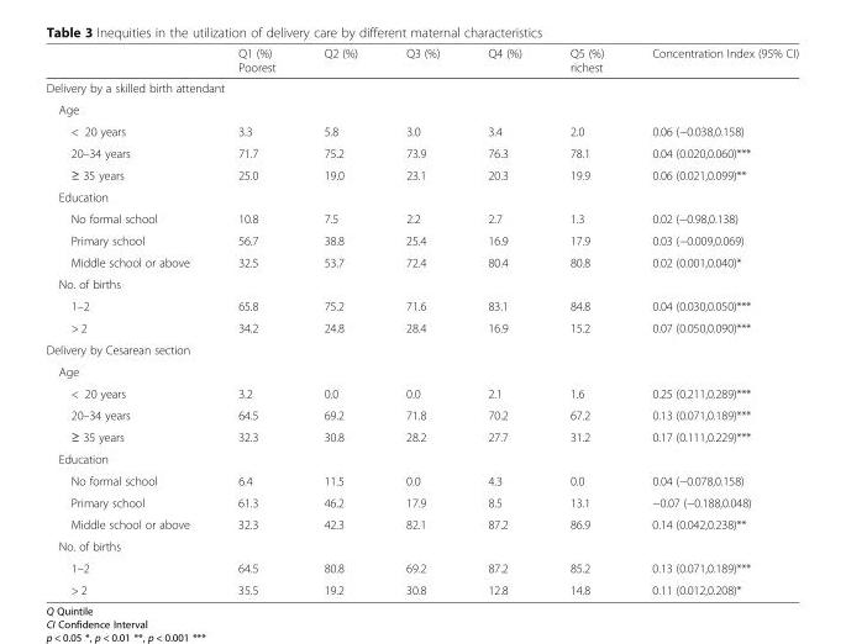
<table><thead><tr><td></td><td>Q1 (%) Poorest</td><td>Q2 (%)</td><td>Q3 (%)</td><td>Q4 (%)</td><td>Q5 (%) richest</td><td>Concentration Index (95% CI)</td></tr></thead><tbody><tr><td colspan="7">Delivery by a skilled birth attendant</td></tr><tr><td colspan="7">Age</td></tr><tr><td>&lt; 20 years</td><td>3.3</td><td>5.8</td><td>3.0</td><td>3.4</td><td>2.0</td><td>0.06 (−0.038,0.158)</td></tr><tr><td>20–34 years</td><td>71.7</td><td>75.2</td><td>73.9</td><td>76.3</td><td>78.1</td><td>0.04 (0.020,0.060)***</td></tr><tr><td>≥ 35 years</td><td>25.0</td><td>19.0</td><td>23.1</td><td>20.3</td><td>19.9</td><td>0.06 (0.021,0.099)**</td></tr><tr><td colspan="7">Education</td></tr><tr><td>No formal school</td><td>10.8</td><td>7.5</td><td>2.2</td><td>2.7</td><td>1.3</td><td>0.02 (−0.98,0.138)</td></tr><tr><td>Primary school</td><td>56.7</td><td>38.8</td><td>25.4</td><td>16.9</td><td>17.9</td><td>0.03 (−0.009,0.069)</td></tr><tr><td>Middle school or above</td><td>32.5</td><td>53.7</td><td>72.4</td><td>80.4</td><td>80.8</td><td>0.02 (0.001,0.040)*</td></tr><tr><td colspan="7">No. of births</td></tr><tr><td>1–2</td><td>65.8</td><td>75.2</td><td>71.6</td><td>83.1</td><td>84.8</td><td>0.04 (0.030,0.050)***</td></tr><tr><td>&gt; 2</td><td>34.2</td><td>24.8</td><td>28.4</td><td>16.9</td><td>15.2</td><td>0.07 (0.050,0.090)***</td></tr><tr><td colspan="7">Delivery by Cesarean section</td></tr><tr><td colspan="7">Age</td></tr><tr><td>&lt; 20 years</td><td>3.2</td><td>0.0</td><td>0.0</td><td>2.1</td><td>1.6</td><td>0.25 (0.211,0.289)***</td></tr><tr><td>20–34 years</td><td>64.5</td><td>69.2</td><td>71.8</td><td>70.2</td><td>67.2</td><td>0.13 (0.071,0.189)***</td></tr><tr><td>≥ 35 years</td><td>32.3</td><td>30.8</td><td>28.2</td><td>27.7</td><td>31.2</td><td>0.17 (0.111,0.229)***</td></tr><tr><td colspan="7">Education</td></tr><tr><td>No formal school</td><td>6.4</td><td>11.5</td><td>0.0</td><td>4.3</td><td>0.0</td><td>0.04 (−0.078,0.158)</td></tr><tr><td>Primary school</td><td>61.3</td><td>46.2</td><td>17.9</td><td>8.5</td><td>13.1</td><td>−0.07 (−0.188,0.048)</td></tr><tr><td>Middle school or above</td><td>32.3</td><td>42.3</td><td>82.1</td><td>87.2</td><td>86.9</td><td>0.14 (0.042,0.238)**</td></tr><tr><td colspan="7">No. of births</td></tr><tr><td>1–2</td><td>64.5</td><td>80.8</td><td>69.2</td><td>87.2</td><td>85.2</td><td>0.13 (0.071,0.189)***</td></tr><tr><td>&gt; 2</td><td>35.5</td><td>19.2</td><td>30.8</td><td>12.8</td><td>14.8</td><td>0.11 (0.012,0.208)*</td></tr></tbody></table>